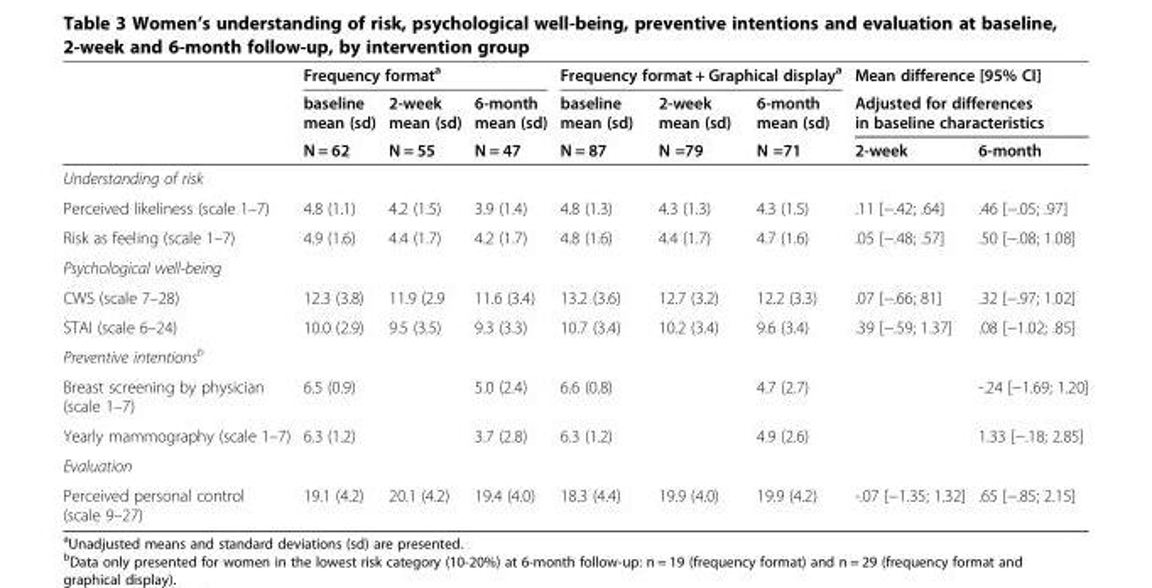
<table><thead><tr><td rowspan="3"></td><td colspan="3">Frequency format<sup>a</sup></td><td colspan="3">Frequency format + Graphical display<sup>a</sup></td><td rowspan="2" colspan="2">Mean difference [95% CI] Adjusted for differences in baseline characteristics</td></tr><tr><td rowspan="2">baseline mean (sd) N = 62</td><td rowspan="2">2-week mean (sd) N = 55</td><td rowspan="2">6-month mean (sd) N = 47</td><td rowspan="2">baseline mean (sd) N = 87</td><td rowspan="2">2-week mean (sd) N =79</td><td rowspan="2">6-month mean (sd) N =71</td></tr><tr><td>2-week</td><td>6-month</td></tr></thead><tbody><tr><td colspan="9">Understanding of risk</td></tr><tr><td>Perceived likeliness (scale 1–7)</td><td>4.8 (1.1)</td><td>4.2 (1.5)</td><td>3.9 (1.4)</td><td>4.8 (1.3)</td><td>4.3 (1.3)</td><td>4.3 (1.5)</td><td>.11 [−.42; .64]</td><td>.46 [−.05; .97]</td></tr><tr><td>Risk as feeling (scale 1–7)</td><td>4.9 (1.6)</td><td>4.4 (1.7)</td><td>4.2 (1.7)</td><td>4.8 (1.6)</td><td>4.4 (1.7)</td><td>4.7 (1.6)</td><td>.05 [−.48; .57]</td><td>.50 [−.08; 1.08]</td></tr><tr><td colspan="9">Psychological well-being</td></tr><tr><td>CWS (scale 7–28)</td><td>12.3 (3.8)</td><td>11.9 (2.9</td><td>11.6 (3.4)</td><td>13.2 (3.6)</td><td>12.7 (3.2)</td><td>12.2 (3.3)</td><td>.07 [−.66; 81]</td><td>.32 [−.97; 1.02]</td></tr><tr><td>STAI (scale 6–24)</td><td>10.0 (2.9)</td><td>9.5 (3.5)</td><td>9.3 (3.3)</td><td>10.7 (3.4)</td><td>10.2 (3.4)</td><td>9.6 (3.4)</td><td>.39 [−.59; 1.37]</td><td>.08 [−1.02; .85]</td></tr><tr><td colspan="9">Preventive intentions<sup>b</sup></td></tr><tr><td>Breast screening by physician (scale 1–7)</td><td>6.5 (0.9)</td><td></td><td>5.0 (2.4)</td><td>6.6 (0.8)</td><td></td><td>4.7 (2.7)</td><td></td><td>-.24 [−1.69; 1.20]</td></tr><tr><td>Yearly mammography (scale 1–7)</td><td>6.3 (1.2)</td><td></td><td>3.7 (2.8)</td><td>6.3 (1.2)</td><td></td><td>4.9 (2.6)</td><td></td><td>1.33 [−.18; 2.85]</td></tr><tr><td colspan="9">Evaluation</td></tr><tr><td>Perceived personal control (scale 9–27)</td><td>19.1 (4.2)</td><td>20.1 (4.2)</td><td>19.4 (4.0)</td><td>18.3 (4.4)</td><td>19.9 (4.0)</td><td>19.9 (4.2)</td><td>-.07 [−1.35; 1.32]</td><td>.65 [−.85; 2.15]</td></tr></tbody></table>